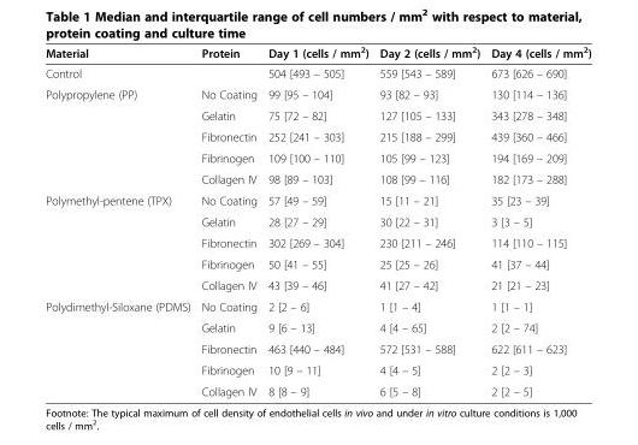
<table><thead><tr><td>Material</td><td>Protein</td><td>Day 1 (cells / mm<sup>2</sup>)</td><td>Day 2 (cells / mm<sup>2</sup>)</td><td>Day 4 (cells / mm<sup>2</sup>)</td></tr></thead><tbody><tr><td>Control</td><td></td><td>504 [493 – 505]</td><td>559 [543 – 589]</td><td>673 [626 – 690]</td></tr><tr><td rowspan="5">Polypropylene (PP)</td><td>No Coating</td><td>99 [95 – 104]</td><td>93 [82 – 93]</td><td>130 [114 – 136]</td></tr><tr><td>Gelatin</td><td>75 [72 – 82]</td><td>127 [105 – 133]</td><td>343 [278 – 348]</td></tr><tr><td>Fibronectin</td><td>252 [241 – 303]</td><td>215 [188 – 299]</td><td>439 [360 – 466]</td></tr><tr><td>Fibrinogen</td><td>109 [100 – 110]</td><td>105 [99 – 123]</td><td>194 [169 – 209]</td></tr><tr><td>Collagen IV</td><td>98 [89 – 103]</td><td>108 [99 – 116]</td><td>182 [173 – 288]</td></tr><tr><td rowspan="5">Polymethyl-pentene (TPX)</td><td>No Coating</td><td>57 [49 – 59]</td><td>15 [11 – 21]</td><td>35 [23 – 39]</td></tr><tr><td>Gelatin</td><td>28 [27 – 29]</td><td>30 [22 – 31]</td><td>3 [3 – 5]</td></tr><tr><td>Fibronectin</td><td>302 [269 – 304]</td><td>230 [211 – 246]</td><td>114 [110 – 115]</td></tr><tr><td>Fibrinogen</td><td>50 [41 – 55]</td><td>25 [25 – 26]</td><td>41 [37 – 44]</td></tr><tr><td>Collagen IV</td><td>43 [39 – 46]</td><td>41 [27 – 42]</td><td>21 [21 – 23]</td></tr><tr><td rowspan="5">Polydimethyl-Siloxane (PDMS)</td><td>No Coating</td><td>2 [2 – 6]</td><td>1 [1 – 4]</td><td>1 [1 – 1]</td></tr><tr><td>Gelatin</td><td>9 [6 – 13]</td><td>4 [4 – 65]</td><td>2 [2 – 74]</td></tr><tr><td>Fibronectin</td><td>463 [440 – 484]</td><td>572 [531 – 588]</td><td>622 [611 – 623]</td></tr><tr><td>Fibrinogen</td><td>10 [9 – 11]</td><td>4 [4 – 5]</td><td>2 [2 – 3]</td></tr><tr><td>Collagen IV</td><td>8 [8 – 9]</td><td>6 [5 – 8]</td><td>2 [2 – 5]</td></tr></tbody></table>